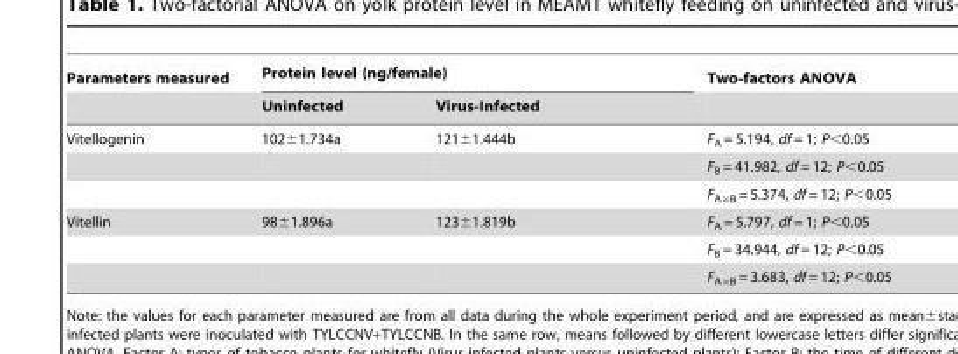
<table><thead><tr><td rowspan="2">Parameters measured</td><td colspan="2">Protein level (ng/female)</td><td rowspan="2">Two-factors ANOVA</td></tr><tr><td>Uninfected</td><td>Virus-Infected</td></tr></thead><tbody><tr><td rowspan="3">Vitellogenin</td><td>102±1.734a</td><td>121±1.444b</td><td>F<sub>A</sub> = 5.194, df = 1; P&lt;0.05</td></tr><tr><td></td><td></td><td>F<sub>B</sub> = 41.982, df = 12; P&lt;0.05</td></tr><tr><td></td><td></td><td>F<sub>A×B</sub> = 5.374, df = 12; P&lt;0.05</td></tr><tr><td rowspan="3">Vitellin</td><td>98±1.896a</td><td>123±1.819b</td><td>F<sub>A</sub> = 5.797, df = 1; P&lt;0.05</td></tr><tr><td></td><td></td><td>F<sub>B</sub> = 34.944, df = 12; P&lt;0.05</td></tr><tr><td></td><td></td><td>F<sub>A×B</sub> = 3.683, df = 12; P&lt;0.05</td></tr></tbody></table>